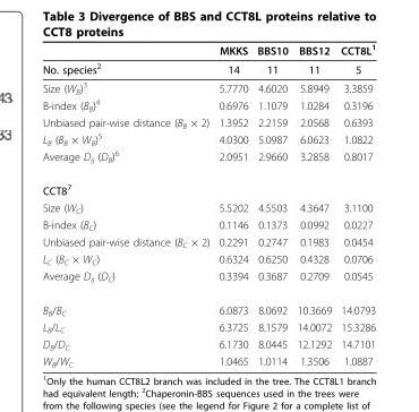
<table><thead><tr><td></td><td>MKKS</td><td>BBS10</td><td>BBS12</td><td>CCT8L<sup>1</sup></td></tr></thead><tbody><tr><td>No. species<sup>2</sup></td><td>14</td><td>11</td><td>11</td><td>5</td></tr><tr><td>Size (W<sub>B</sub>)<sup>3</sup></td><td>5.7770</td><td>4.6020</td><td>5.8949</td><td>3.3859</td></tr><tr><td>B-index (B<sub>B</sub>)<sup>4</sup></td><td>0.6976</td><td>1.1079</td><td>1.0284</td><td>0.3196</td></tr><tr><td>Unbiased pair-wise distance (B<sub>B</sub> × 2)</td><td>1.3952</td><td>2.2159</td><td>2.0568</td><td>0.6393</td></tr><tr><td>L<sub>B</sub> (B<sub>B</sub> × W<sub>B</sub>)<sup>5</sup></td><td>4.0300</td><td>5.0987</td><td>6.0623</td><td>1.0822</td></tr><tr><td>Average D<sub>ij</sub> (D<sub>B</sub>)<sup>6</sup></td><td>2.0951</td><td>2.9660</td><td>3.2858</td><td>0.8017</td></tr><tr><td colspan="5">CCT8<sup>7</sup></td></tr><tr><td>Size (W<sub>C</sub>)</td><td>5.5202</td><td>4.5503</td><td>4.3647</td><td>3.1100</td></tr><tr><td>B-index (B<sub>C</sub>)</td><td>0.1146</td><td>0.1373</td><td>0.0992</td><td>0.0227</td></tr><tr><td>Unbiased pair-wise distance (B<sub>C</sub> × 2)</td><td>0.2291</td><td>0.2747</td><td>0.1983</td><td>0.0454</td></tr><tr><td>L<sub>C</sub> (B<sub>C</sub> × W<sub>C</sub>)</td><td>0.6324</td><td>0.6250</td><td>0.4328</td><td>0.0706</td></tr><tr><td>Average D<sub>ij</sub> (D<sub>C</sub>)</td><td>0.3394</td><td>0.3687</td><td>0.2709</td><td>0.0545</td></tr><tr><td>B<sub>B</sub>/B<sub>C</sub></td><td>6.0873</td><td>8.0692</td><td>10.3669</td><td>14.0793</td></tr><tr><td>L<sub>B</sub>/L<sub>C</sub></td><td>6.3725</td><td>8.1579</td><td>14.0072</td><td>15.3286</td></tr><tr><td>D<sub>B</sub>/D<sub>C</sub></td><td>6.1730</td><td>8.0445</td><td>12.1292</td><td>14.7101</td></tr><tr><td>W<sub>B</sub>/W<sub>C</sub></td><td>1.0465</td><td>1.0114</td><td>1.3506</td><td>1.0887</td></tr></tbody></table>